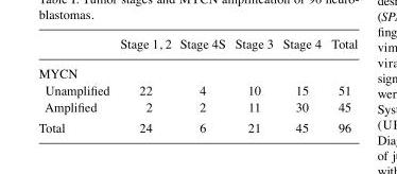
<table><thead><tr><td></td><td>Stage 1, 2</td><td>Stage 4S</td><td>Stage 3</td><td>Stage 4</td><td>Total</td></tr></thead><tbody><tr><td colspan="6">MYCN</td></tr><tr><td>Unamplified</td><td>22</td><td>4</td><td>10</td><td>15</td><td>51</td></tr><tr><td>Amplified</td><td>2</td><td>2</td><td>11</td><td>30</td><td>45</td></tr><tr><td>Total</td><td>24</td><td>6</td><td>21</td><td>45</td><td>96</td></tr></tbody></table>